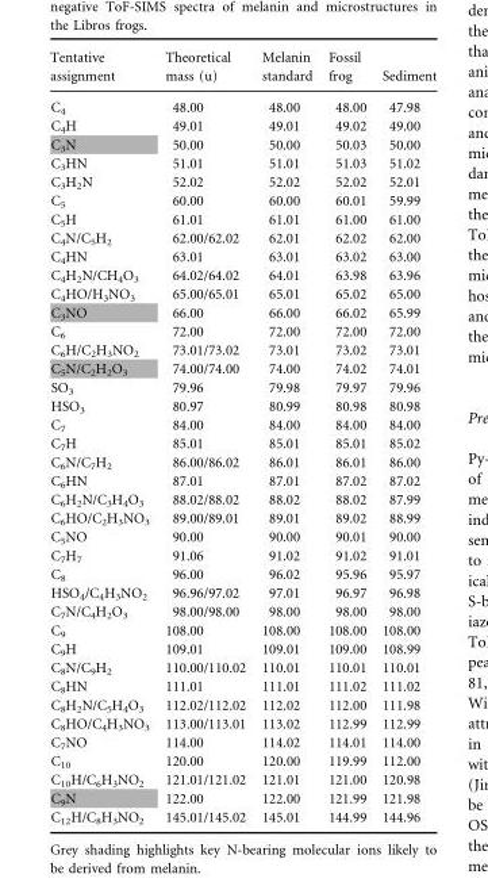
<table><thead><tr><td>Tentative assignment</td><td>Theoretical mass (u)</td><td>Melanin standard</td><td>Fossil frog</td><td>Sediment</td></tr></thead><tbody><tr><td>C<sub>4</sub></td><td>48.00</td><td>48.00</td><td>48.00</td><td>47.98</td></tr><tr><td>C<sub>4</sub>H</td><td>49.01</td><td>49.01</td><td>49.02</td><td>49.00</td></tr><tr><td>C<sub>3</sub>N</td><td>50.00</td><td>50.00</td><td>50.03</td><td>50.00</td></tr><tr><td>C<sub>3</sub>HN</td><td>51.01</td><td>51.01</td><td>51.03</td><td>51.02</td></tr><tr><td>C<sub>3</sub>H<sub>2</sub>N</td><td>52.02</td><td>52.02</td><td>52.02</td><td>52.01</td></tr><tr><td>C<sub>5</sub></td><td>60.00</td><td>60.00</td><td>60.01</td><td>59.99</td></tr><tr><td>C<sub>5</sub>H</td><td>61.01</td><td>61.01</td><td>61.00</td><td>61.00</td></tr><tr><td>C<sub>4</sub>N/C<sub>5</sub>H<sub>2</sub></td><td>62.00/62.02</td><td>62.01</td><td>62.02</td><td>62.00</td></tr><tr><td>C<sub>4</sub>HN</td><td>63.01</td><td>63.01</td><td>63.02</td><td>63.00</td></tr><tr><td>C<sub>4</sub>H<sub>2</sub>N/CH<sub>4</sub>O<sub>3</sub></td><td>64.02/64.02</td><td>64.01</td><td>63.98</td><td>63.96</td></tr><tr><td>C<sub>4</sub>HO/H<sub>3</sub>NO<sub>3</sub></td><td>65.00/65.01</td><td>65.01</td><td>65.02</td><td>65.00</td></tr><tr><td>C<sub>3</sub>NO</td><td>66.00</td><td>66.00</td><td>66.02</td><td>65.99</td></tr><tr><td>C<sub>6</sub></td><td>72.00</td><td>72.00</td><td>72.00</td><td>72.00</td></tr><tr><td>C<sub>6</sub>H/C<sub>2</sub>H<sub>3</sub>NO<sub>2</sub></td><td>73.01/73.02</td><td>73.01</td><td>73.02</td><td>73.01</td></tr><tr><td>C<sub>5</sub>N/C<sub>2</sub>H<sub>2</sub>O<sub>3</sub></td><td>74.00/74.00</td><td>74.00</td><td>74.02</td><td>74.01</td></tr><tr><td>SO<sub>3</sub></td><td>79.96</td><td>79.98</td><td>79.97</td><td>79.96</td></tr><tr><td>HSO<sub>3</sub></td><td>80.97</td><td>80.99</td><td>80.98</td><td>80.98</td></tr><tr><td>C<sub>7</sub></td><td>84.00</td><td>84.00</td><td>84.00</td><td>84.00</td></tr><tr><td>C<sub>7</sub>H</td><td>85.01</td><td>85.01</td><td>85.01</td><td>85.02</td></tr><tr><td>C<sub>6</sub>N/C<sub>7</sub>H<sub>2</sub></td><td>86.00/86.02</td><td>86.01</td><td>86.01</td><td>86.00</td></tr><tr><td>C<sub>6</sub>HN</td><td>87.01</td><td>87.01</td><td>87.02</td><td>87.02</td></tr><tr><td>C<sub>6</sub>H<sub>2</sub>N/C<sub>3</sub>H<sub>4</sub>O<sub>3</sub></td><td>88.02/88.02</td><td>88.02</td><td>88.02</td><td>87.99</td></tr><tr><td>C<sub>6</sub>HO/C<sub>2</sub>H<sub>3</sub>NO<sub>3</sub></td><td>89.00/89.01</td><td>89.01</td><td>89.02</td><td>88.99</td></tr><tr><td>C<sub>5</sub>NO</td><td>90.00</td><td>90.00</td><td>90.01</td><td>90.00</td></tr><tr><td>C<sub>7</sub>H<sub>7</sub></td><td>91.06</td><td>91.02</td><td>91.02</td><td>91.01</td></tr><tr><td>C<sub>8</sub></td><td>96.00</td><td>96.02</td><td>95.96</td><td>95.97</td></tr><tr><td>HSO<sub>4</sub>/C<sub>4</sub>H<sub>3</sub>NO<sub>2</sub></td><td>96.96/97.02</td><td>97.01</td><td>96.97</td><td>96.98</td></tr><tr><td>C<sub>7</sub>N/C<sub>4</sub>H<sub>2</sub>O<sub>3</sub></td><td>98.00/98.00</td><td>98.00</td><td>98.00</td><td>98.00</td></tr><tr><td>C<sub>9</sub></td><td>108.00</td><td>108.00</td><td>108.00</td><td>108.00</td></tr><tr><td>C<sub>9</sub>H</td><td>109.01</td><td>109.01</td><td>109.00</td><td>108.99</td></tr><tr><td>C<sub>8</sub>N/C<sub>9</sub>H<sub>2</sub></td><td>110.00/110.02</td><td>110.01</td><td>110.01</td><td>110.01</td></tr><tr><td>C<sub>8</sub>HN</td><td>111.01</td><td>111.01</td><td>111.02</td><td>111.02</td></tr><tr><td>C<sub>8</sub>H<sub>2</sub>N/C<sub>5</sub>H<sub>4</sub>O<sub>3</sub></td><td>112.02/112.02</td><td>112.02</td><td>112.00</td><td>111.98</td></tr><tr><td>C<sub>8</sub>HO/C<sub>4</sub>H<sub>3</sub>NO<sub>3</sub></td><td>113.00/113.01</td><td>113.02</td><td>112.99</td><td>112.99</td></tr><tr><td>C<sub>7</sub>NO</td><td>114.00</td><td>114.02</td><td>114.01</td><td>114.00</td></tr><tr><td>C<sub>10</sub></td><td>120.00</td><td>120.00</td><td>119.99</td><td>112.00</td></tr><tr><td>C<sub>10</sub>H/C<sub>6</sub>H<sub>3</sub>NO<sub>2</sub></td><td>121.01/121.02</td><td>121.01</td><td>121.00</td><td>120.98</td></tr><tr><td>C<sub>9</sub>N</td><td>122.00</td><td>122.00</td><td>121.99</td><td>121.98</td></tr><tr><td>C<sub>12</sub>H/C<sub>8</sub>H<sub>3</sub>NO<sub>2</sub></td><td>145.01/145.02</td><td>145.01</td><td>144.99</td><td>144.96</td></tr></tbody></table>